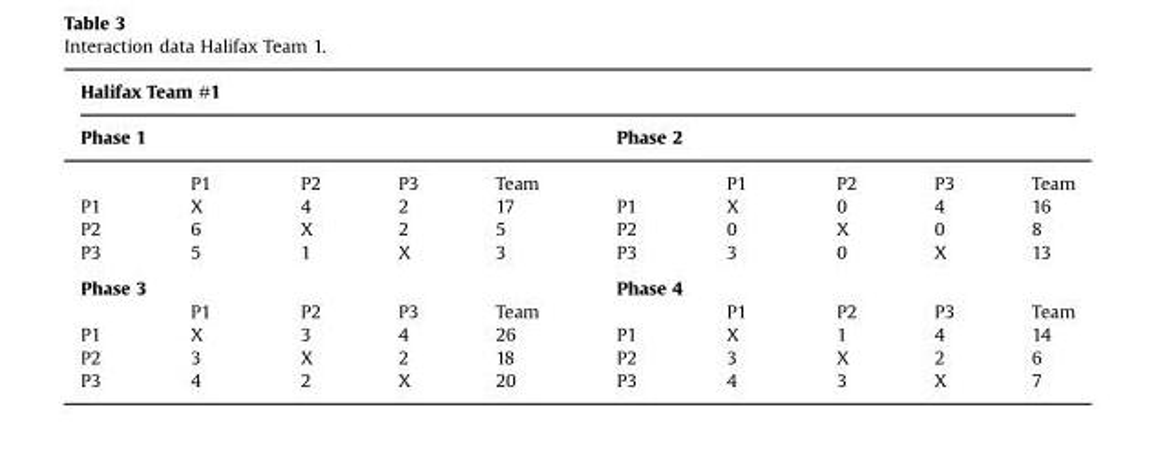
<table><thead><tr><td colspan="10">Halifax Team #1</td></tr><tr><td colspan="5">Phase 1</td><td colspan="5">Phase 2</td></tr><tr><td></td><td>P1</td><td>P2</td><td>P3</td><td>Team</td><td></td><td>P1</td><td>P2</td><td>P3</td><td>Team</td></tr></thead><tbody><tr><td>P1</td><td>X</td><td>4</td><td>2</td><td>17</td><td>P1</td><td>X</td><td>0</td><td>4</td><td>16</td></tr><tr><td>P2</td><td>6</td><td>X</td><td>2</td><td>5</td><td>P2</td><td>0</td><td>X</td><td>0</td><td>8</td></tr><tr><td>P3</td><td>5</td><td>1</td><td>X</td><td>3</td><td>P3</td><td>3</td><td>0</td><td>X</td><td>13</td></tr><tr><td colspan="2">Phase 3</td><td></td><td></td><td></td><td colspan="2">Phase 4</td><td></td><td></td><td></td></tr><tr><td></td><td>P1</td><td>P2</td><td>P3</td><td>Team</td><td></td><td>P1</td><td>P2</td><td>P3</td><td>Team</td></tr><tr><td>P1</td><td>X</td><td>3</td><td>4</td><td>26</td><td>P1</td><td>X</td><td>1</td><td>4</td><td>14</td></tr><tr><td>P2</td><td>3</td><td>X</td><td>2</td><td>18</td><td>P2</td><td>3</td><td>X</td><td>2</td><td>6</td></tr><tr><td>P3</td><td>4</td><td>2</td><td>X</td><td>20</td><td>P3</td><td>4</td><td>3</td><td>X</td><td>7</td></tr></tbody></table>